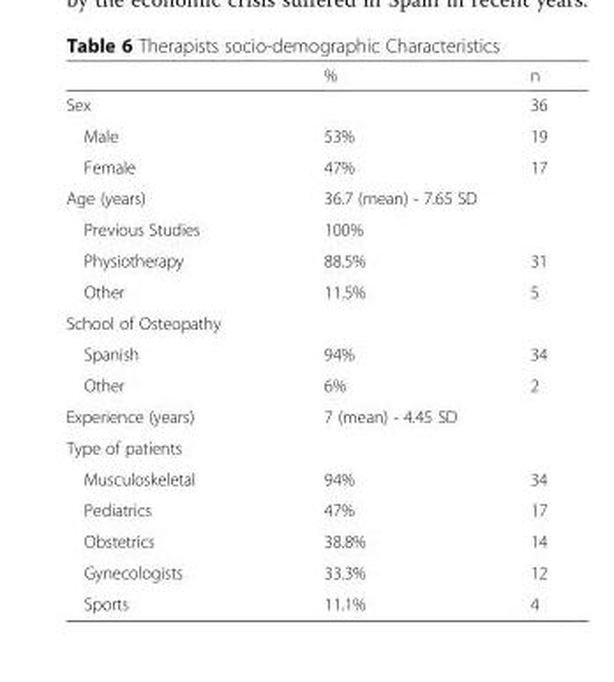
<table><thead><tr><td></td><td>%</td><td>n</td></tr></thead><tbody><tr><td>Sex</td><td></td><td>36</td></tr><tr><td>Male</td><td>53%</td><td>19</td></tr><tr><td>Female</td><td>47%</td><td>17</td></tr><tr><td>Age (years)</td><td colspan="2">36.7 (mean) - 7.65 SD</td></tr><tr><td>Previous Studies</td><td>100%</td><td></td></tr><tr><td>Physiotherapy</td><td>88.5%</td><td>31</td></tr><tr><td>Other</td><td>11.5%</td><td>5</td></tr><tr><td colspan="3">School of Osteopathy</td></tr><tr><td>Spanish</td><td>94%</td><td>34</td></tr><tr><td>Other</td><td>6%</td><td>2</td></tr><tr><td>Experience (years)</td><td colspan="2">7 (mean) - 4.45 SD</td></tr><tr><td colspan="3">Type of patients</td></tr><tr><td>Musculoskeletal</td><td>94%</td><td>34</td></tr><tr><td>Pediatrics</td><td>47%</td><td>17</td></tr><tr><td>Obstetrics</td><td>38.8%</td><td>14</td></tr><tr><td>Gynecologists</td><td>33.3%</td><td>12</td></tr><tr><td>Sports</td><td>11.1%</td><td>4</td></tr></tbody></table>